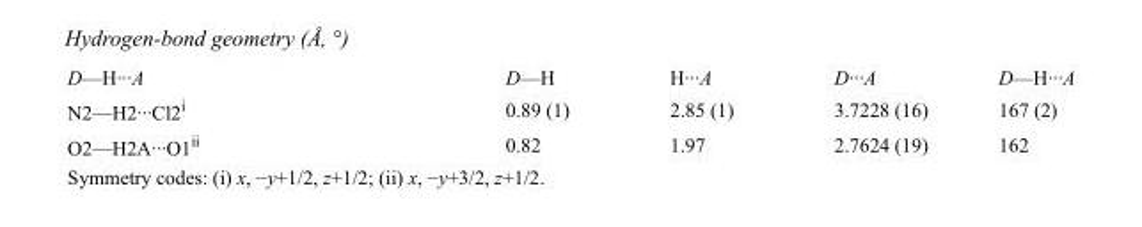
<table><tbody><tr><td>D—H···A</td><td>D—H</td><td>H···A</td><td>D···A</td><td>D—H···A</td></tr><tr><td>N2—H2···Cl2<sup>i</sup></td><td>0.89 (1)</td><td>2.85 (1)</td><td>3.7228 (16)</td><td>167 (2)</td></tr><tr><td>O2—H2A···O1<sup>ii</sup></td><td>0.82</td><td>1.97</td><td>2.7624 (19)</td><td>162</td></tr></tbody></table>